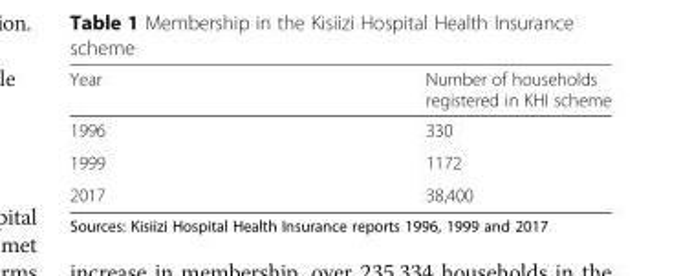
<table><thead><tr><td>Year</td><td>Number of households registered in KHI scheme</td></tr></thead><tbody><tr><td>1996</td><td>330</td></tr><tr><td>1999</td><td>1172</td></tr><tr><td>2017</td><td>38,400</td></tr></tbody></table>